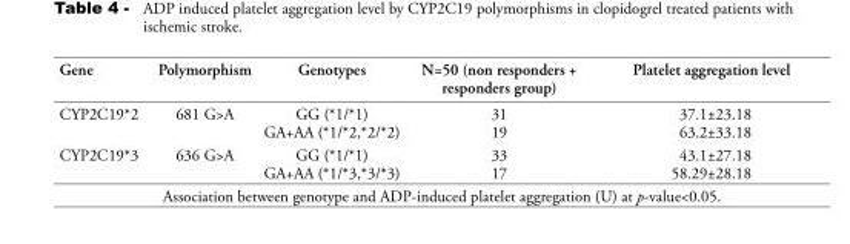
<table><thead><tr><td>Gene</td><td>Polymorphism</td><td>Genotypes</td><td>N=50 (non responders + responders group)</td><td>Platelet aggregation level</td></tr></thead><tbody><tr><td>CYP2C19*2</td><td>681 G&gt;A</td><td>GG )*1/*1( GA+AA )*1/*2,*2/*2(</td><td>31 19</td><td>37.1±23.18 63.2±33.18</td></tr><tr><td>CYP2C19*3</td><td>636 G&gt;A</td><td>GG )*1/*1( GA+AA )*1/*3,*3/*3(</td><td>33 17</td><td>43.1±27.18 58.29±28.18</td></tr></tbody></table>